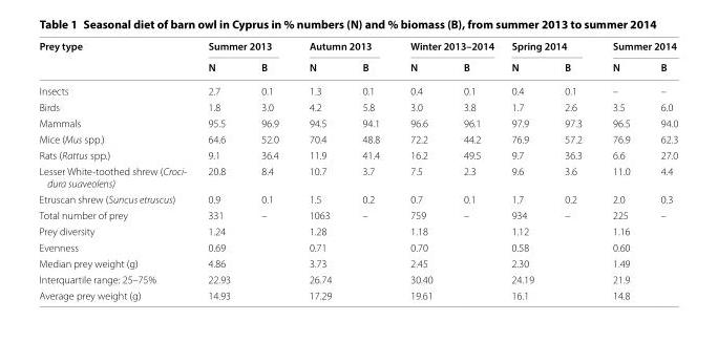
<table><thead><tr><td rowspan="2">Prey type</td><td colspan="2">Summer 2013</td><td colspan="2">Autumn 2013</td><td colspan="2">Winter 2013–2014</td><td colspan="2">Spring 2014</td><td colspan="2">Summer 2014</td></tr><tr><td>N</td><td>B</td><td>N</td><td>B</td><td>N</td><td>B</td><td>N</td><td>B</td><td>N</td><td>B</td></tr></thead><tbody><tr><td>Insects</td><td>2.7</td><td>0.1</td><td>1.3</td><td>0.1</td><td>0.4</td><td>0.1</td><td>0.4</td><td>0.1</td><td>–</td><td>–</td></tr><tr><td>Birds</td><td>1.8</td><td>3.0</td><td>4.2</td><td>5.8</td><td>3.0</td><td>3.8</td><td>1.7</td><td>2.6</td><td>3.5</td><td>6.0</td></tr><tr><td>Mammals</td><td>95.5</td><td>96.9</td><td>94.5</td><td>94.1</td><td>96.6</td><td>96.1</td><td>97.9</td><td>97.3</td><td>96.5</td><td>94.0</td></tr><tr><td>Mice (Mus spp.)</td><td>64.6</td><td>52.0</td><td>70.4</td><td>48.8</td><td>72.2</td><td>44.2</td><td>76.9</td><td>57.2</td><td>76.9</td><td>62.3</td></tr><tr><td>Rats (Rattus spp.)</td><td>9.1</td><td>36.4</td><td>11.9</td><td>41.4</td><td>16.2</td><td>49.5</td><td>9.7</td><td>36.3</td><td>6.6</td><td>27.0</td></tr><tr><td>Lesser White-toothed shrew (Croci- dura suaveolens)</td><td>20.8</td><td>8.4</td><td>10.7</td><td>3.7</td><td>7.5</td><td>2.3</td><td>9.6</td><td>3.6</td><td>11.0</td><td>4.4</td></tr><tr><td>Etruscan shrew (Suncus etruscus)</td><td>0.9</td><td>0.1</td><td>1.5</td><td>0.2</td><td>0.7</td><td>0.1</td><td>1.7</td><td>0.2</td><td>2.0</td><td>0.3</td></tr><tr><td>Total number of prey</td><td>331</td><td>–</td><td>1063</td><td>–</td><td>759</td><td>–</td><td>934</td><td>–</td><td>225</td><td>–</td></tr><tr><td>Prey diversity</td><td>1.24</td><td></td><td>1.28</td><td></td><td>1.18</td><td></td><td>1.12</td><td></td><td>1.16</td><td></td></tr><tr><td>Evenness</td><td>0.69</td><td></td><td>0.71</td><td></td><td>0.70</td><td></td><td>0.58</td><td></td><td>0.60</td><td></td></tr><tr><td>Median prey weight (g)</td><td>4.86</td><td></td><td>3.73</td><td></td><td>2.45</td><td></td><td>2.30</td><td></td><td>1.49</td><td></td></tr><tr><td>Interquartile range: 25–75%</td><td>22.93</td><td></td><td>26.74</td><td></td><td>30.40</td><td></td><td>24.19</td><td></td><td>21.9</td><td></td></tr><tr><td>Average prey weight (g)</td><td>14.93</td><td></td><td>17.29</td><td></td><td>19.61</td><td></td><td>16.1</td><td></td><td>14.8</td><td></td></tr></tbody></table>